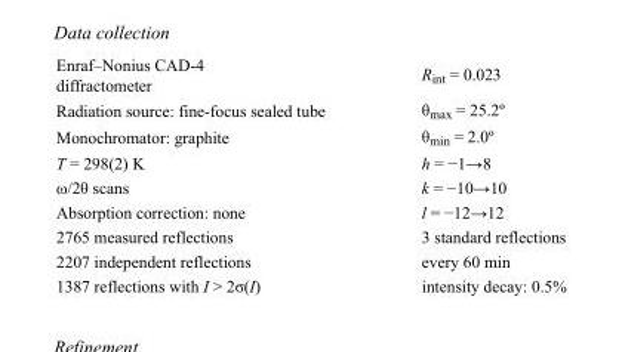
<table><tbody><tr><td>Enraf–Nonius CAD-4 diffractometer</td><td>R<sub>int</sub> = 0.023</td></tr><tr><td>Radiation source: fine-focus sealed tube</td><td>θ<sub>max</sub> = 25.2º</td></tr><tr><td>Monochromator: graphite</td><td>θ<sub>min</sub> = 2.0º</td></tr><tr><td>T = 298(2) K</td><td>h = −1→8</td></tr><tr><td>ω/2θ scans</td><td>k = −10→10</td></tr><tr><td>Absorption correction: none</td><td>l = −12→12</td></tr><tr><td>2765 measured reflections</td><td>3 standard reflections</td></tr><tr><td>2207 independent reflections</td><td>every 60 min</td></tr><tr><td>1387 reflections with I &gt; 2σ(I)</td><td>intensity decay: 0.5%</td></tr></tbody></table>